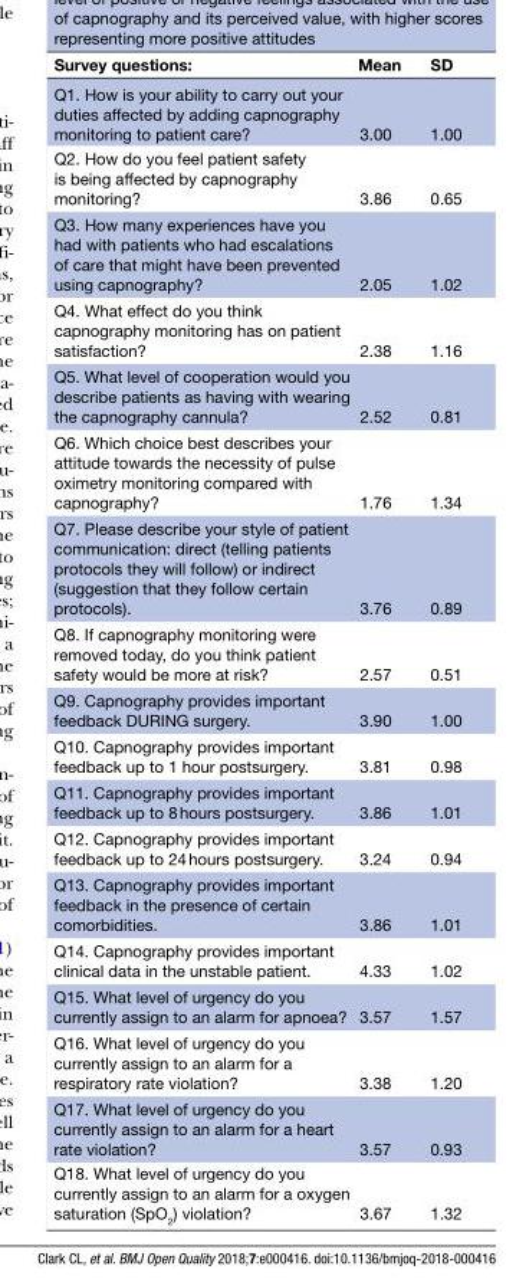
<table><thead><tr><td>Survey questions:</td><td>Mean</td><td>SD</td></tr></thead><tbody><tr><td>Q1. How is your ability to carry out your duties affected by adding capnography monitoring to patient care?</td><td>3.00</td><td>1.00</td></tr><tr><td>Q2. How do you feel patient safety is being affected by capnography monitoring?</td><td>3.86</td><td>0.65</td></tr><tr><td>Q3. How many experiences have you had with patients who had escalations of care that might have been prevented using capnography?</td><td>2.05</td><td>1.02</td></tr><tr><td>Q4. What effect do you think capnography monitoring has on patient satisfaction?</td><td>2.38</td><td>1.16</td></tr><tr><td>Q5. What level of cooperation would you describe patients as having with wearing the capnography cannula?</td><td>2.52</td><td>0.81</td></tr><tr><td>Q6. Which choice best describes your attitude towards the necessity of pulse oximetry monitoring compared with capnography?</td><td>1.76</td><td>1.34</td></tr><tr><td>Q7. Please describe your style of patient communication: direct (telling patients protocols they will follow) or indirect (suggestion that they follow certain protocols).</td><td>3.76</td><td>0.89</td></tr><tr><td>Q8. If capnography monitoring were removed today, do you think patient safety would be more at risk?</td><td>2.57</td><td>0.51</td></tr><tr><td>Q9. Capnography provides important feedback DURING surgery.</td><td>3.90</td><td>1.00</td></tr><tr><td>Q10. Capnography provides important feedback up to 1 hour postsurgery.</td><td>3.81</td><td>0.98</td></tr><tr><td>Q11. Capnography provides important feedback up to 8 hours postsurgery.</td><td>3.86</td><td>1.01</td></tr><tr><td>Q12. Capnography provides important feedback up to 24 hours postsurgery.</td><td>3.24</td><td>0.94</td></tr><tr><td>Q13. Capnography provides important feedback in the presence of certain comorbidities.</td><td>3.86</td><td>1.01</td></tr><tr><td>Q14. Capnography provides important clinical data in the unstable patient.</td><td>4.33</td><td>1.02</td></tr><tr><td>Q15. What level of urgency do you currently assign to an alarm for apnoea?</td><td>3.57</td><td>1.57</td></tr><tr><td>Q16. What level of urgency do you currently assign to an alarm for a respiratory rate violation?</td><td>3.38</td><td>1.20</td></tr><tr><td>Q17. What level of urgency do you currently assign to an alarm for a heart rate violation?</td><td>3.57</td><td>0.93</td></tr><tr><td>Q18. What level of urgency do you currently assign to an alarm for a oxygen saturation (SpO<sub>2</sub>) violation?</td><td>3.67</td><td>1.32</td></tr></tbody></table>